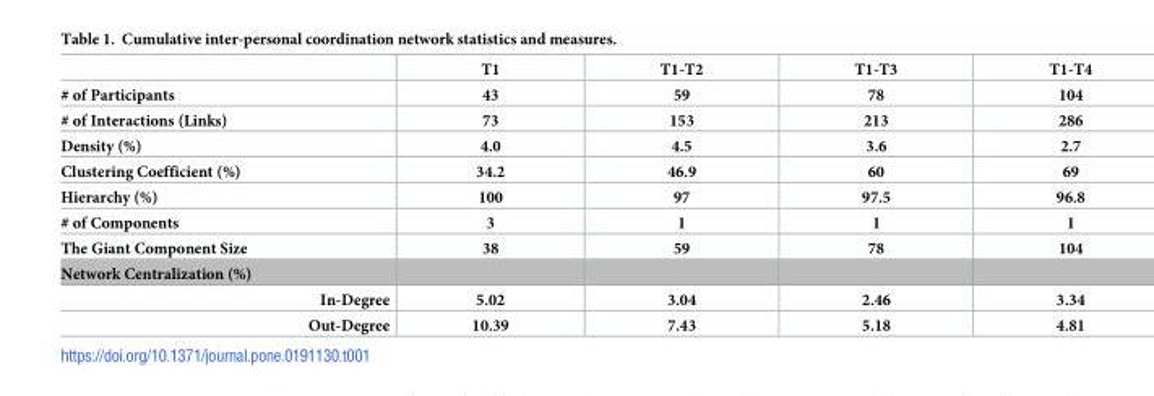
<table><thead><tr><td></td><td>T1</td><td>T1-T2</td><td>T1-T3</td><td>T1-T4</td></tr></thead><tbody><tr><td># of Participants</td><td>43</td><td>59</td><td>78</td><td>104</td></tr><tr><td># of Interactions (Links)</td><td>73</td><td>153</td><td>213</td><td>286</td></tr><tr><td>Density (%)</td><td>4.0</td><td>4.5</td><td>3.6</td><td>2.7</td></tr><tr><td>Clustering Coefficient (%)</td><td>34.2</td><td>46.9</td><td>60</td><td>69</td></tr><tr><td>Hierarchy (%)</td><td>100</td><td>97</td><td>97.5</td><td>96.8</td></tr><tr><td># of Components</td><td>3</td><td>1</td><td>1</td><td>1</td></tr><tr><td>The Giant Component Size</td><td>38</td><td>59</td><td>78</td><td>104</td></tr><tr><td colspan="5">Network Centralization (%)</td></tr><tr><td>In-Degree</td><td>5.02</td><td>3.04</td><td>2.46</td><td>3.34</td></tr><tr><td>Out-Degree</td><td>10.39</td><td>7.43</td><td>5.18</td><td>4.81</td></tr></tbody></table>